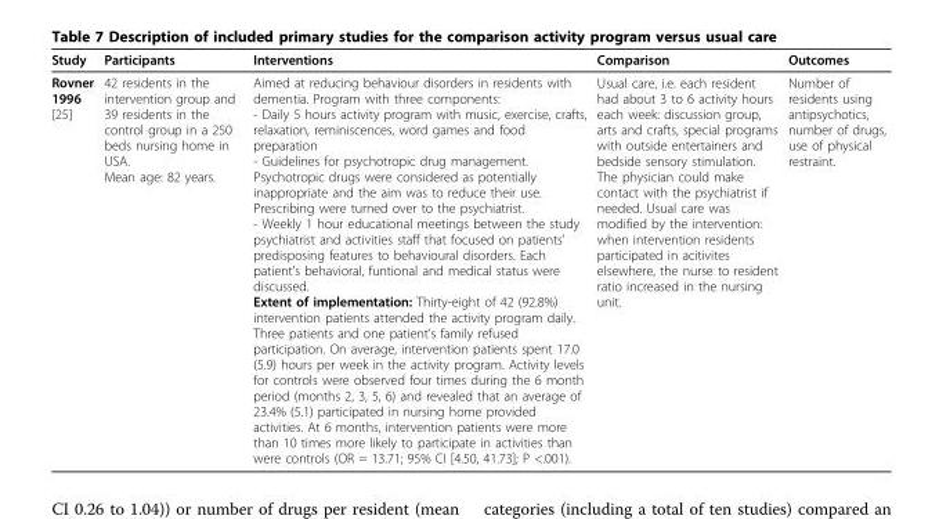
<table><thead><tr><td>Study</td><td>Participants</td><td>Interventions</td><td>Comparison</td><td>Outcomes</td></tr></thead><tbody><tr><td>Rovner 1996 [25]</td><td>42 residents in the intervention group and 39 residents in the control group in a 250 beds nursing home in USA. Mean age: 82 years.</td><td>Aimed at reducing behaviour disorders in residents with dementia. Program with three components: - Daily 5 hours activity program with music, exercise, crafts, relaxation, reminiscences, word games and food preparation - Guidelines for psychotropic drug management. Psychotropic drugs were considered as potentially inappropriate and the aim was to reduce their use. Prescribing were turned over to the psychiatrist. - Weekly 1 hour educational meetings between the study psychiatrist and activities staff that focused on patients’ predisposing features to behavioural disorders. Each patient’s behavioral, funtional and medical status were discussed. Extent of implementation: Thirty-eight of 42 (92.8%) intervention patients attended the activity program daily. Three patients and one patient’s family refused participation. On average, intervention patients spent 17.0 (5.9) hours per week in the activity program. Activity levels for controls were observed four times during the 6 month period (months 2, 3, 5, 6) and revealed that an average of 23.4% (5.1) participated in nursing home provided activities. At 6 months, intervention patients were more than 10 times more likely to participate in activities than were controls (OR = 13.71; 95% CI [4.50, 41.73]; P &lt;.001).</td><td>Usual care, i.e. each resident had about 3 to 6 activity hours each week: discussion group, arts and crafts, special programs with outside entertainers and bedside sensory stimulation. The physician could make contact with the psychiatrist if needed. Usual care was modified by the intervention: when intervention residents participated in acitivites elsewhere, the nurse to resident ratio increased in the nursing unit.</td><td>Number of residents using antipsychotics, number of drugs, use of physical restraint.</td></tr></tbody></table>